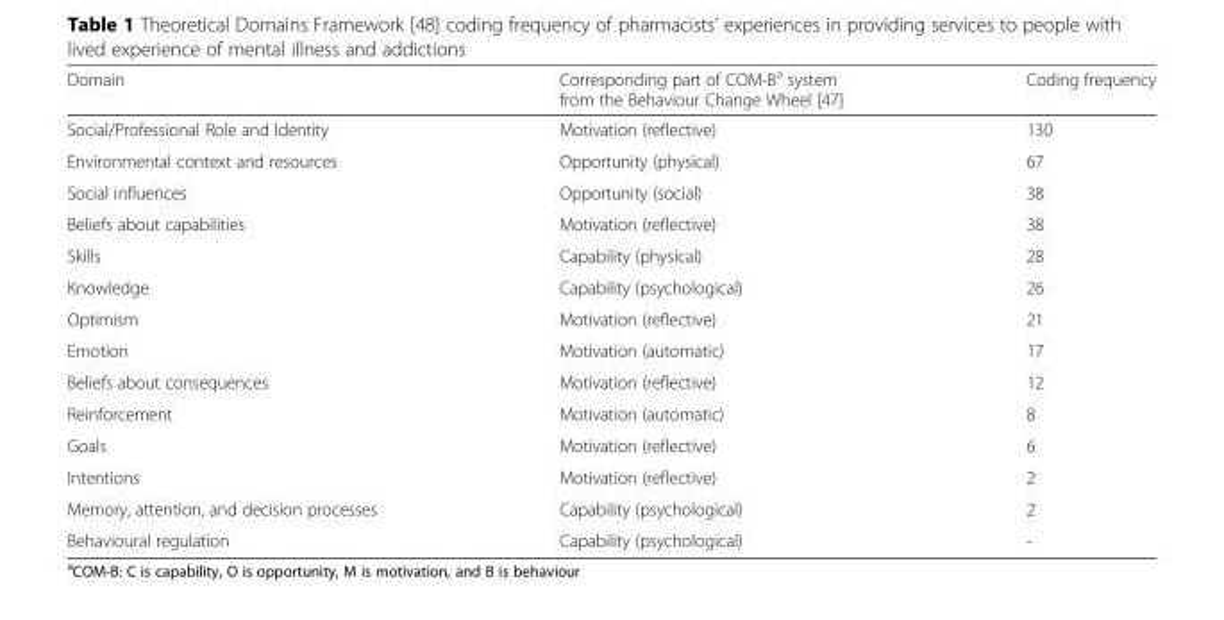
<table><thead><tr><td>Domain</td><td>Corresponding part of COM-B<sup>a</sup> system from the Behaviour Change Wheel [47]</td><td>Coding frequency</td></tr></thead><tbody><tr><td>Social/Professional Role and Identity</td><td>Motivation (reflective)</td><td>130</td></tr><tr><td>Environmental context and resources</td><td>Opportunity (physical)</td><td>67</td></tr><tr><td>Social influences</td><td>Opportunity (social)</td><td>38</td></tr><tr><td>Beliefs about capabilities</td><td>Motivation (reflective)</td><td>38</td></tr><tr><td>Skills</td><td>Capability (physical)</td><td>28</td></tr><tr><td>Knowledge</td><td>Capability (psychological)</td><td>26</td></tr><tr><td>Optimism</td><td>Motivation (reflective)</td><td>21</td></tr><tr><td>Emotion</td><td>Motivation (automatic)</td><td>17</td></tr><tr><td>Beliefs about consequences</td><td>Motivation (reflective)</td><td>12</td></tr><tr><td>Reinforcement</td><td>Motivation (automatic)</td><td>8</td></tr><tr><td>Goals</td><td>Motivation (reflective)</td><td>6</td></tr><tr><td>Intentions</td><td>Motivation (reflective)</td><td>2</td></tr><tr><td>Memory, attention, and decision processes</td><td>Capability (psychological)</td><td>2</td></tr><tr><td>Behavioural regulation</td><td>Capability (psychological)</td><td>-</td></tr></tbody></table>